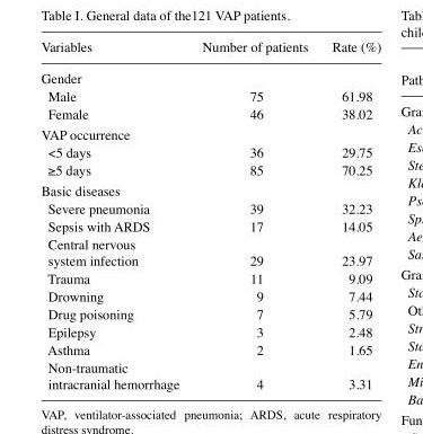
<table><thead><tr><td>Variables</td><td>Number of patients</td><td>Rate (%)</td></tr></thead><tbody><tr><td colspan="3">Gender</td></tr><tr><td>Male</td><td>75</td><td>61.98</td></tr><tr><td>Female</td><td>46</td><td>38.02</td></tr><tr><td colspan="3">VAP occurrence</td></tr><tr><td>&lt;5 days</td><td>36</td><td>29.75</td></tr><tr><td>≥5 days</td><td>85</td><td>70.25</td></tr><tr><td colspan="3">Basic diseases</td></tr><tr><td>Severe pneumonia</td><td>39</td><td>32.23</td></tr><tr><td>Sepsis with ARDS</td><td>17</td><td>14.05</td></tr><tr><td>Central nervous system infection</td><td>29</td><td>23.97</td></tr><tr><td>Trauma</td><td>11</td><td>9.09</td></tr><tr><td>Drowning</td><td>9</td><td>7.44</td></tr><tr><td>Drug poisoning</td><td>7</td><td>5.79</td></tr><tr><td>Epilepsy</td><td>3</td><td>2.48</td></tr><tr><td>Asthma</td><td>2</td><td>1.65</td></tr><tr><td colspan="3">Non-traumatic</td></tr><tr><td>intracranial hemorrhage</td><td>4</td><td>3.31</td></tr></tbody></table>